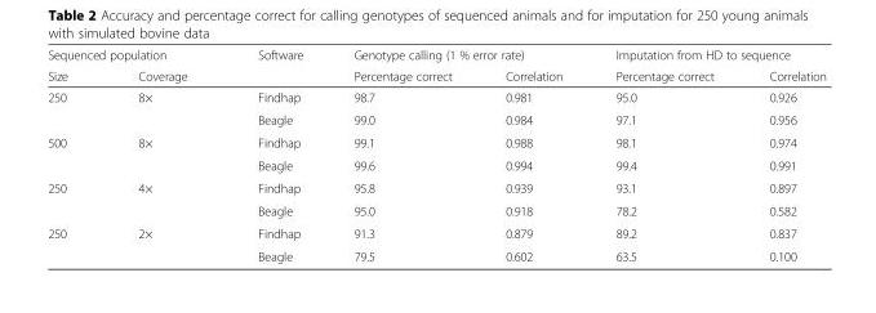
<table><thead><tr><td colspan="2">Sequenced population</td><td rowspan="2">Software</td><td colspan="2">Genotype calling (1 % error rate)</td><td colspan="2">Imputation from HD to sequence</td></tr><tr><td>Size</td><td>Coverage</td><td>Percentage correct</td><td>Correlation</td><td>Percentage correct</td><td>Correlation</td></tr></thead><tbody><tr><td rowspan="2">250</td><td rowspan="2">8×</td><td>Findhap</td><td>98.7</td><td>0.981</td><td>95.0</td><td>0.926</td></tr><tr><td>Beagle</td><td>99.0</td><td>0.984</td><td>97.1</td><td>0.956</td></tr><tr><td rowspan="2">500</td><td rowspan="2">8×</td><td>Findhap</td><td>99.1</td><td>0.988</td><td>98.1</td><td>0.974</td></tr><tr><td>Beagle</td><td>99.6</td><td>0.994</td><td>99.4</td><td>0.991</td></tr><tr><td rowspan="2">250</td><td rowspan="2">4×</td><td>Findhap</td><td>95.8</td><td>0.939</td><td>93.1</td><td>0.897</td></tr><tr><td>Beagle</td><td>95.0</td><td>0.918</td><td>78.2</td><td>0.582</td></tr><tr><td rowspan="2">250</td><td rowspan="2">2×</td><td>Findhap</td><td>91.3</td><td>0.879</td><td>89.2</td><td>0.837</td></tr><tr><td>Beagle</td><td>79.5</td><td>0.602</td><td>63.5</td><td>0.100</td></tr></tbody></table>